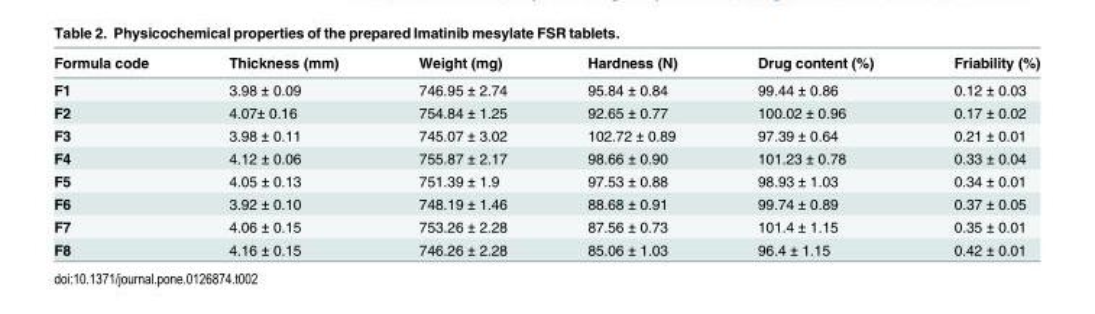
<table><thead><tr><td>Formula code</td><td>Thickness (mm)</td><td>Weight (mg)</td><td>Hardness (N)</td><td>Drug content (%)</td><td>Friability (%)</td></tr></thead><tbody><tr><td>F1</td><td>3.98 ± 0.09</td><td>746.95 ± 2.74</td><td>95.84 ± 0.84</td><td>99.44 ± 0.86</td><td>0.12 ± 0.03</td></tr><tr><td>F2</td><td>4.07± 0.16</td><td>754.84 ± 1.25</td><td>92.65 ± 0.77</td><td>100.02 ± 0.96</td><td>0.17 ± 0.02</td></tr><tr><td>F3</td><td>3.98 ± 0.11</td><td>745.07 ± 3.02</td><td>102.72 ± 0.89</td><td>97.39 ± 0.64</td><td>0.21 ± 0.01</td></tr><tr><td>F4</td><td>4.12 ± 0.06</td><td>755.87 ± 2.17</td><td>98.66 ± 0.90</td><td>101.23 ± 0.78</td><td>0.33 ± 0.04</td></tr><tr><td>F5</td><td>4.05 ± 0.13</td><td>751.39 ± 1.9</td><td>97.53 ± 0.88</td><td>98.93 ± 1.03</td><td>0.34 ± 0.01</td></tr><tr><td>F6</td><td>3.92 ± 0.10</td><td>748.19 ± 1.46</td><td>88.68 ± 0.91</td><td>99.74 ± 0.89</td><td>0.37 ± 0.05</td></tr><tr><td>F7</td><td>4.06 ± 0.15</td><td>753.26 ± 2.28</td><td>87.56 ± 0.73</td><td>101.4 ± 1.15</td><td>0.35 ± 0.01</td></tr><tr><td>F8</td><td>4.16 ± 0.15</td><td>746.26 ± 2.28</td><td>85.06 ± 1.03</td><td>96.4 ± 1.15</td><td>0.42 ± 0.01</td></tr></tbody></table>